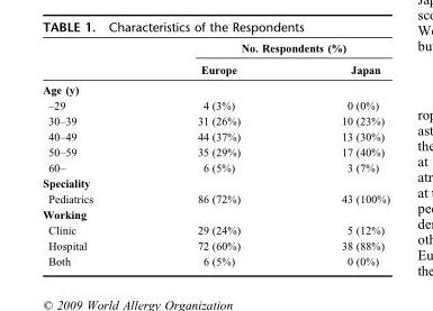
<table><thead><tr><td rowspan="2"></td><td colspan="2">No. Respondents (%)</td></tr><tr><td>Europe</td><td>Japan</td></tr></thead><tbody><tr><td colspan="3">Age (y)</td></tr><tr><td>–29</td><td>4 (3%)</td><td>0 (0%)</td></tr><tr><td>30–39</td><td>31 (26%)</td><td>10 (23%)</td></tr><tr><td>40–49</td><td>44 (37%)</td><td>13 (30%)</td></tr><tr><td>50–59</td><td>35 (29%)</td><td>17 (40%)</td></tr><tr><td>60–</td><td>6 (5%)</td><td>3 (7%)</td></tr><tr><td colspan="3">Speciality</td></tr><tr><td>Pediatrics</td><td>86 (72%)</td><td>43 (100%)</td></tr><tr><td colspan="3">Working</td></tr><tr><td>Clinic</td><td>29 (24%)</td><td>5 (12%)</td></tr><tr><td>Hospital</td><td>72 (60%)</td><td>38 (88%)</td></tr><tr><td>Both</td><td>6 (5%)</td><td>0 (0%)</td></tr></tbody></table>